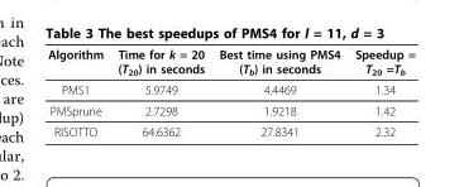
<table><thead><tr><td>Algorithm</td><td>Time for k = 20 (T<sub>20</sub>) in seconds</td><td>Best time using PMS4 (T<sub>b</sub>) in seconds</td><td>Speedup = T<sub>20</sub> =T<sub>b</sub></td></tr></thead><tbody><tr><td>PMS1</td><td>5.9749</td><td>4.4469</td><td>1.34</td></tr><tr><td>PMSprune</td><td>2.7298</td><td>1.9218</td><td>1.42</td></tr><tr><td>RISOTTO</td><td>64.6362</td><td>27.8341</td><td>2.32</td></tr></tbody></table>